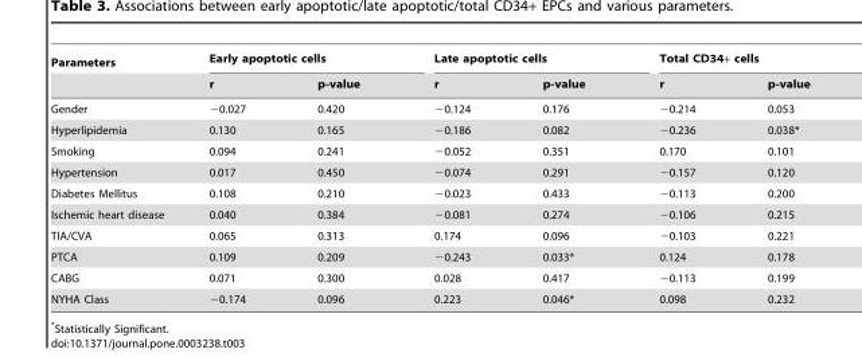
<table><thead><tr><td rowspan="2">Parameters</td><td colspan="2">Early apoptotic cells</td><td colspan="2">Late apoptotic cells</td><td colspan="2">Total CD34+ cells</td></tr><tr><td>r</td><td>p-value</td><td>r</td><td>p-value</td><td>r</td><td>p-value</td></tr></thead><tbody><tr><td>Gender</td><td>−0.027</td><td>0.420</td><td>−0.124</td><td>0.176</td><td>−0.214</td><td>0.053</td></tr><tr><td>Hyperlipidemia</td><td>0.130</td><td>0.165</td><td>−0.186</td><td>0.082</td><td>−0.236</td><td>0.038*</td></tr><tr><td>Smoking</td><td>0.094</td><td>0.241</td><td>−0.052</td><td>0.351</td><td>0.170</td><td>0.101</td></tr><tr><td>Hypertension</td><td>0.017</td><td>0.450</td><td>−0.074</td><td>0.291</td><td>−0.157</td><td>0.120</td></tr><tr><td>Diabetes Mellitus</td><td>0.108</td><td>0.210</td><td>−0.023</td><td>0.433</td><td>−0.113</td><td>0.200</td></tr><tr><td>Ischemic heart disease</td><td>0.040</td><td>0.384</td><td>−0.081</td><td>0.274</td><td>−0.106</td><td>0.215</td></tr><tr><td>TIA/CVA</td><td>0.065</td><td>0.313</td><td>0.174</td><td>0.096</td><td>−0.103</td><td>0.221</td></tr><tr><td>PTCA</td><td>0.109</td><td>0.209</td><td>−0.243</td><td>0.033*</td><td>0.124</td><td>0.178</td></tr><tr><td>CABG</td><td>0.071</td><td>0.300</td><td>0.028</td><td>0.417</td><td>−0.113</td><td>0.199</td></tr><tr><td>NYHA Class</td><td>−0.174</td><td>0.096</td><td>0.223</td><td>0.046*</td><td>0.098</td><td>0.232</td></tr></tbody></table>